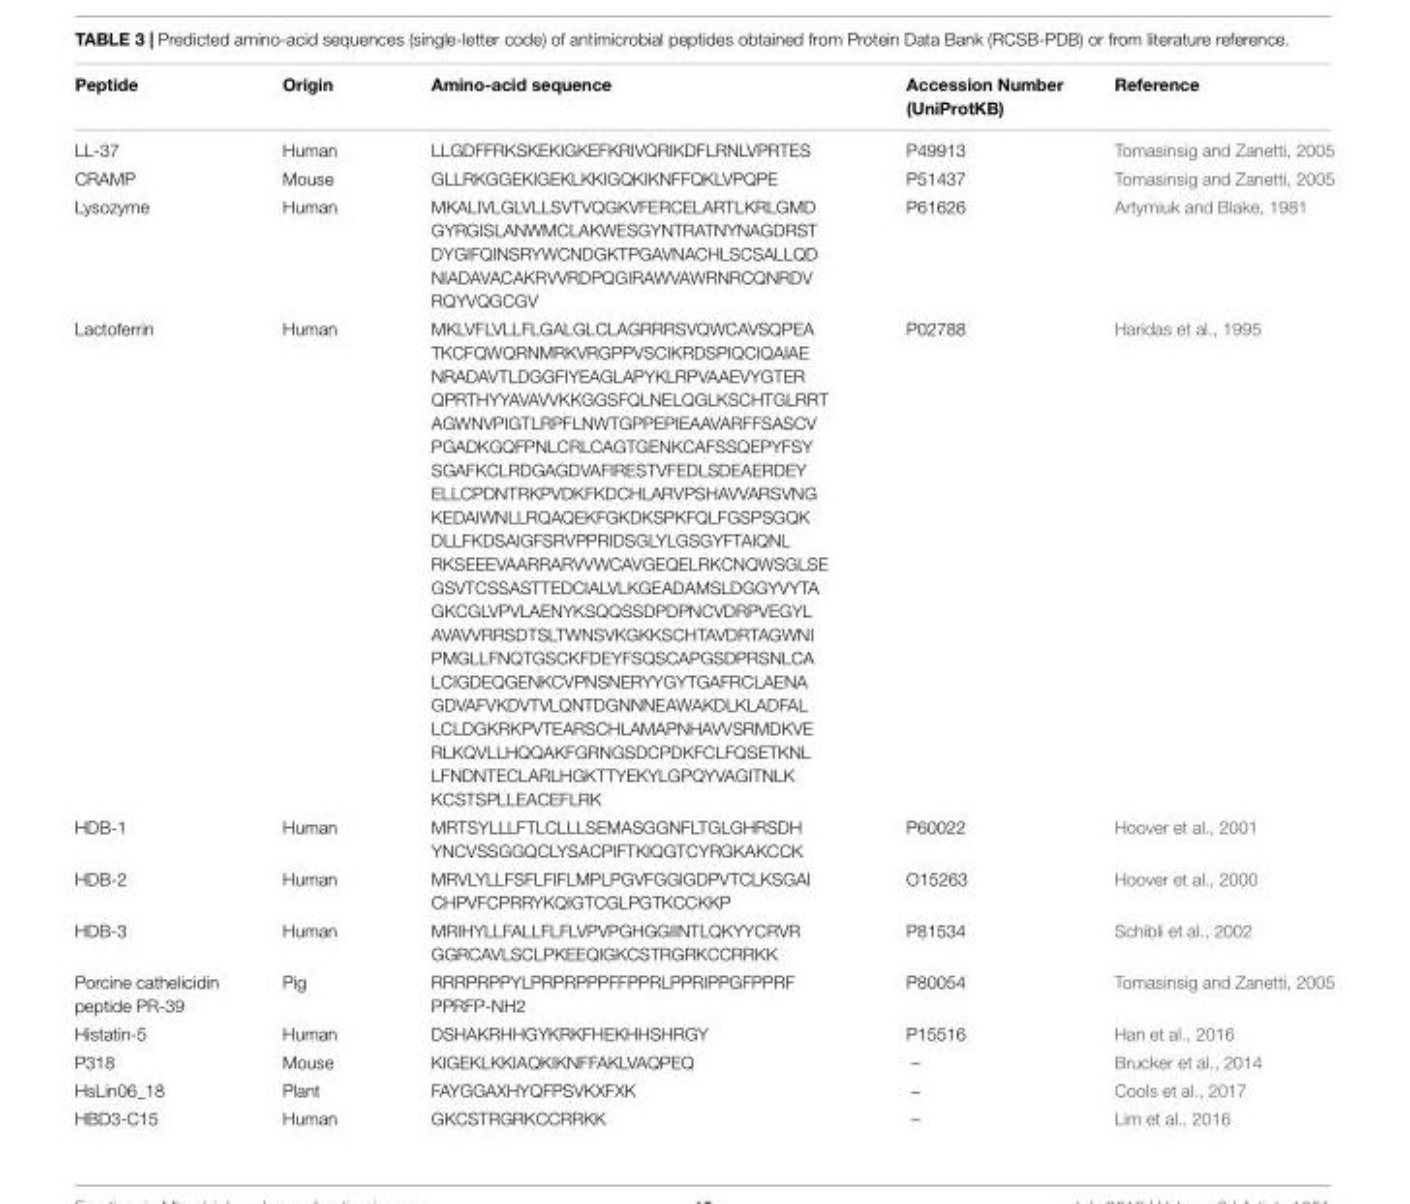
<table><thead><tr><td>Peptide</td><td>Origin</td><td>Amino-acid sequence</td><td>Accession Number (UniProtKB)</td><td>Reference</td></tr></thead><tbody><tr><td>LL-37</td><td>Human</td><td>LLGDFFRKSKEKIGKEFKRIVQRIKDFLRNLVPRTES</td><td>P49913</td><td>Tomasinsig and Zanetti, 2005</td></tr><tr><td>CRAMP</td><td>Mouse</td><td>GLLRKGGEKIGEKLKKIGQKIKNFFQKLVPQPE</td><td>P51437</td><td>Tomasinsig and Zanetti, 2005</td></tr><tr><td>Lysozyme</td><td>Human</td><td>MKALIVLGLVLLSVTVQGKVFERCELARTLKRLGMD GYRGISLANWMCLAKWESGYNTRATNYNAGDRST DYGIFQINSRYWCNDGKTPGAVNACHLSCSALLQD NIADAVACAKRVVRDPQGIRAWVAWRNRCQNRDV RQYVQGCGV</td><td>P61626</td><td>Artymiuk and Blake, 1981</td></tr><tr><td>Lactoferrin</td><td>Human</td><td>MKLVFLVLLFLGALGLCLAGRRRSVQWCAVSQPEA TKCFQWQRNMRKVRGPPVSCIKRDSPIQCIQAIAE NRADAVTLDGGFIYEAGLAPYKLRPVAAEVYGTER QPRTHYYAVAVVKKGGSFQLNELQGLKSCHTGLRRT AGWNVPIGTLRPFLNWTGPPEPIEAAVARFFSASCV PGADKGQFPNLCRLCAGTGENKCAFSSQEPYFSY SGAFKCLRDGAGDVAFIRESTVFEDLSDEAERDEY ELLCPDNTRKPVDKFKDCHLARVPSHAVVARSVNG KEDAIWNLLRQAQEKFGKDKSPKFQLFGSPSGQK DLLFKDSAIGFSRVPPRIDSGLYLGSGYFTAIQNL RKSEEEVAARRARVVWCAVGEQELRKCNQWSGLSE GSVTCSSASTTEDCIALVLKGEADAMSLDGGYVYTA GKCGLVPVLAENYKSQQSSDPDPNCVDRPVEGYL AVAVVRRSDTSLTWNSVKGKKSCHTAVDRTAGWNI PMGLLFNQTGSCKFDEYFSQSCAPGSDPRSNLCA LCIGDEQGENKCVPNSNERYYGYTGAFRCLAENA GDVAFVKDVTVLQNTDGNNNEAWAKDLKLADFAL LCLDGKRKPVTEARSCHLAMAPNHAVVSRMDKVE RLKQVLLHQQAKFGRNGSDCPDKFCLFQSETKNL LFNDNTECLARLHGKTTYEKYLGPQYVAGITNLK KCSTSPLLEACEFLRK</td><td>P02788</td><td>Haridas et al., 1995</td></tr><tr><td>HDB-1</td><td>Human</td><td>MRTSYLLLFTLCLLLSEMASGGNFLTGLGHRSDH YNCVSSGGQCLYSACPIFTKIQGTCYRGKAKCCK</td><td>P60022</td><td>Hoover et al., 2001</td></tr><tr><td>HDB-2</td><td>Human</td><td>MRVLYLLFSFLFIFLMPLPGVFGGIGDPVTCLKSGAI CHPVFCPRRYKQIGTCGLPGTKCCKKP</td><td>O15263</td><td>Hoover et al., 2000</td></tr><tr><td>HDB-3</td><td>Human</td><td>MRIHYLLFALLFLFLVPVPGHGGIINTLQKYYCRVR GGRCAVLSCLPKEEQIGKCSTRGRKCCRRKK</td><td>P81534</td><td>Schibli et al., 2002</td></tr><tr><td>Porcine cathelicidin peptide PR-39</td><td>Pig</td><td>RRRPRPPYLPRPRPPPFFPPRLPPRIPPGFPPRF PPRFP-NH2</td><td>P80054</td><td>Tomasinsig and Zanetti, 2005</td></tr><tr><td>Histatin-5</td><td>Human</td><td>DSHAKRHHGYKRKFHEKHHSHRGY</td><td>P15516</td><td>Han et al., 2016</td></tr><tr><td>P318</td><td>Mouse</td><td>KIGEKLKKIAQKIKNFFAKLVAQPEQ</td><td>–</td><td>Brucker et al., 2014</td></tr><tr><td>HsLin06_18</td><td>Plant</td><td>FAYGGAXHYQFPSVKXFXK</td><td>–</td><td>Cools et al., 2017</td></tr><tr><td>HBD3-C15</td><td>Human</td><td>GKCSTRGRKCCRRKK</td><td>–</td><td>Lim et al., 2016</td></tr></tbody></table>